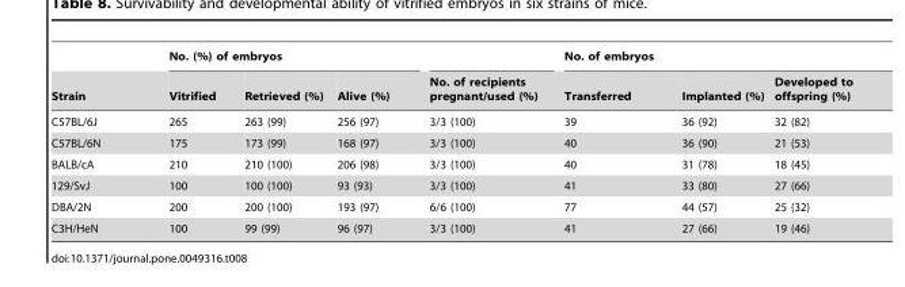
<table><thead><tr><td rowspan="2">Strain</td><td colspan="3">No. (%) of embryos</td><td rowspan="2">No. of recipients pregnant/used (%)</td><td colspan="3">No. of embryos</td></tr><tr><td>Vitrified</td><td>Retrieved (%)</td><td>Alive (%)</td><td>Transferred</td><td>Implanted (%)</td><td>Developed to offspring (%)</td></tr></thead><tbody><tr><td>C57BL/6J</td><td>265</td><td>263 (99)</td><td>256 (97)</td><td>3/3 (100)</td><td>39</td><td>36 (92)</td><td>32 (82)</td></tr><tr><td>C57BL/6N</td><td>175</td><td>173 (99)</td><td>168 (97)</td><td>3/3 (100)</td><td>40</td><td>36 (90)</td><td>21 (53)</td></tr><tr><td>BALB/cA</td><td>210</td><td>210 (100)</td><td>206 (98)</td><td>3/3 (100)</td><td>40</td><td>31 (78)</td><td>18 (45)</td></tr><tr><td>129/SvJ</td><td>100</td><td>100 (100)</td><td>93 (93)</td><td>3/3 (100)</td><td>41</td><td>33 (80)</td><td>27 (66)</td></tr><tr><td>DBA/2N</td><td>200</td><td>200 (100)</td><td>193 (97)</td><td>6/6 (100)</td><td>77</td><td>44 (57)</td><td>25 (32)</td></tr><tr><td>C3H/HeN</td><td>100</td><td>99 (99)</td><td>96 (97)</td><td>3/3 (100)</td><td>41</td><td>27 (66)</td><td>19 (46)</td></tr></tbody></table>